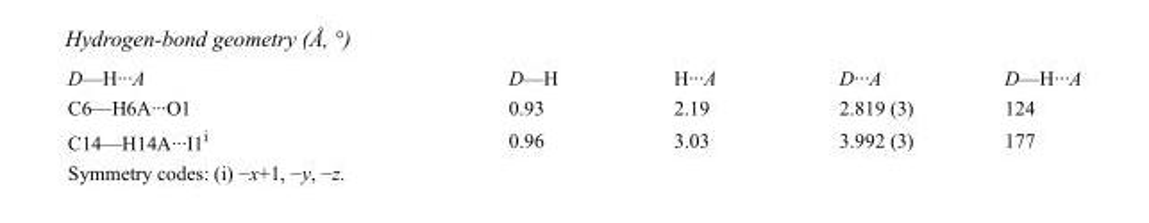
<table><tbody><tr><td>D—H···A</td><td>D—H</td><td>H···A</td><td>D···A</td><td>D—H···A</td></tr><tr><td>C6—H6A···O1</td><td>0.93</td><td>2.19</td><td>2.819 (3)</td><td>124</td></tr><tr><td>C14—H14A···I1<sup>i</sup></td><td>0.96</td><td>3.03</td><td>3.992 (3)</td><td>177</td></tr></tbody></table>